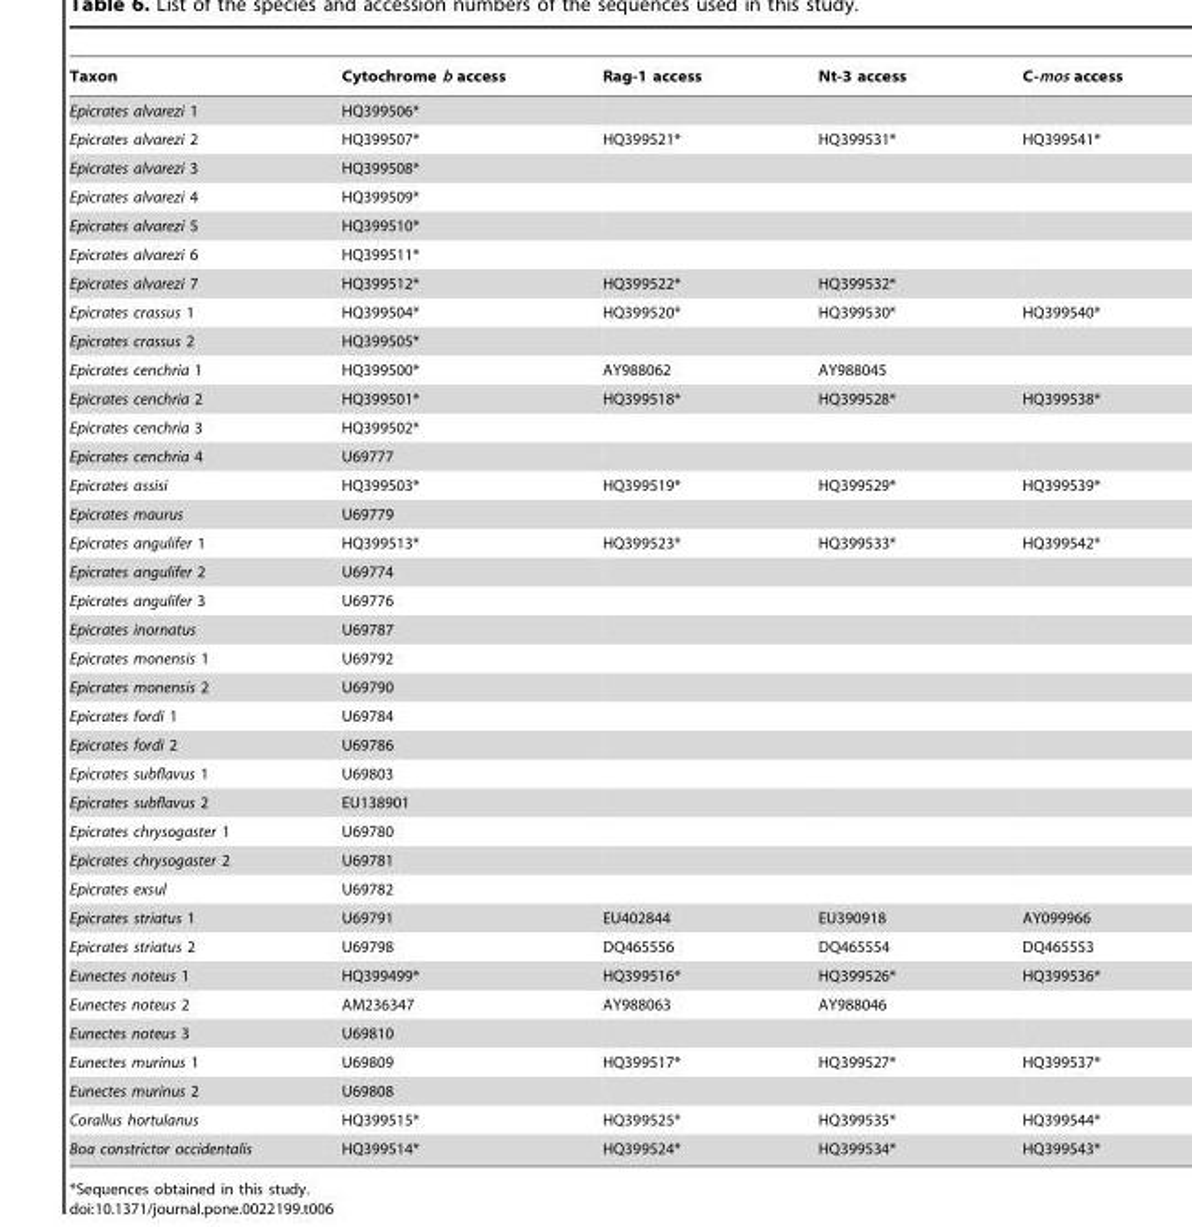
<table><thead><tr><td>Taxon</td><td>Cytochrome b access</td><td>Rag-1 access</td><td>Nt-3 access</td><td>C-mos access</td></tr></thead><tbody><tr><td>Epicrates alvarezi 1</td><td>HQ399506*</td><td></td><td></td><td></td></tr><tr><td>Epicrates alvarezi 2</td><td>HQ399507*</td><td>HQ399521*</td><td>HQ399531*</td><td>HQ399541*</td></tr><tr><td>Epicrates alvarezi 3</td><td>HQ399508*</td><td></td><td></td><td></td></tr><tr><td>Epicrates alvarezi 4</td><td>HQ399509*</td><td></td><td></td><td></td></tr><tr><td>Epicrates alvarezi 5</td><td>HQ399510*</td><td></td><td></td><td></td></tr><tr><td>Epicrates alvarezi 6</td><td>HQ399511*</td><td></td><td></td><td></td></tr><tr><td>Epicrates alvarezi 7</td><td>HQ399512*</td><td>HQ399522*</td><td>HQ399532*</td><td></td></tr><tr><td>Epicrates crassus 1</td><td>HQ399504*</td><td>HQ399520*</td><td>HQ399530*</td><td>HQ399540*</td></tr><tr><td>Epicrates crassus 2</td><td>HQ399505*</td><td></td><td></td><td></td></tr><tr><td>Epicrates cenchria 1</td><td>HQ399500*</td><td>AY988062</td><td>AY988045</td><td></td></tr><tr><td>Epicrates cenchria 2</td><td>HQ399501*</td><td>HQ399518*</td><td>HQ399528*</td><td>HQ399538*</td></tr><tr><td>Epicrates cenchria 3</td><td>HQ399502*</td><td></td><td></td><td></td></tr><tr><td>Epicrates cenchria 4</td><td>U69777</td><td></td><td></td><td></td></tr><tr><td>Epicrates assisi</td><td>HQ399503*</td><td>HQ399519*</td><td>HQ399529*</td><td>HQ399539*</td></tr><tr><td>Epicrates maurus</td><td>U69779</td><td></td><td></td><td></td></tr><tr><td>Epicrates angulifer 1</td><td>HQ399513*</td><td>HQ399523*</td><td>HQ399533*</td><td>HQ399542*</td></tr><tr><td>Epicrates angulifer 2</td><td>U69774</td><td></td><td></td><td></td></tr><tr><td>Epicrates angulifer 3</td><td>U69776</td><td></td><td></td><td></td></tr><tr><td>Epicrates inornatus</td><td>U69787</td><td></td><td></td><td></td></tr><tr><td>Epicrates monensis 1</td><td>U69792</td><td></td><td></td><td></td></tr><tr><td>Epicrates monensis 2</td><td>U69790</td><td></td><td></td><td></td></tr><tr><td>Epicrates fordi 1</td><td>U69784</td><td></td><td></td><td></td></tr><tr><td>Epicrates fordi 2</td><td>U69786</td><td></td><td></td><td></td></tr><tr><td>Epicrates subflavus 1</td><td>U69803</td><td></td><td></td><td></td></tr><tr><td>Epicrates subflavus 2</td><td>EU138901</td><td></td><td></td><td></td></tr><tr><td>Epicrates chrysogaster 1</td><td>U69780</td><td></td><td></td><td></td></tr><tr><td>Epicrates chrysogaster 2</td><td>U69781</td><td></td><td></td><td></td></tr><tr><td>Epicrates exsul</td><td>U69782</td><td></td><td></td><td></td></tr><tr><td>Epicrates striatus 1</td><td>U69791</td><td>EU402844</td><td>EU390918</td><td>AY099966</td></tr><tr><td>Epicrates striatus 2</td><td>U69798</td><td>DQ465556</td><td>DQ465554</td><td>DQ465553</td></tr><tr><td>Eunectes noteus 1</td><td>HQ399499*</td><td>HQ399516*</td><td>HQ399526*</td><td>HQ399536*</td></tr><tr><td>Eunectes noteus 2</td><td>AM236347</td><td>AY988063</td><td>AY988046</td><td></td></tr><tr><td>Eunectes noteus 3</td><td>U69810</td><td></td><td></td><td></td></tr><tr><td>Eunectes murinus 1</td><td>U69809</td><td>HQ399517*</td><td>HQ399527*</td><td>HQ399537*</td></tr><tr><td>Eunectes murinus 2</td><td>U69808</td><td></td><td></td><td></td></tr><tr><td>Corallus hortulanus</td><td>HQ399515*</td><td>HQ399525*</td><td>HQ399535*</td><td>HQ399544*</td></tr><tr><td>Boa constrictor occidentalis</td><td>HQ399514*</td><td>HQ399524*</td><td>HQ399534*</td><td>HQ399543*</td></tr></tbody></table>